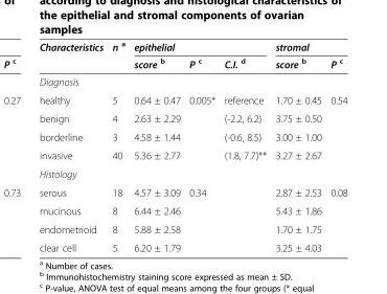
<table><thead><tr><td rowspan="2">Characteristics</td><td rowspan="2">n <sup>a</sup></td><td colspan="3">epithelial</td><td colspan="2">stromal</td></tr><tr><td>score <sup>b</sup></td><td>P <sup>c</sup></td><td>C.I. <sup>d</sup></td><td>score <sup>b</sup></td><td>P <sup>c</sup></td></tr></thead><tbody><tr><td colspan="7">Diagnosis</td></tr><tr><td>healthy</td><td>5</td><td>0.64 ± 0.47</td><td>0.005*</td><td>reference</td><td>1.70 ± 0.45</td><td>0.54</td></tr><tr><td>benign</td><td>4</td><td>2.63 ± 2.29</td><td></td><td>(-2.2, 6.2)</td><td>3.75 ± 0.50</td><td></td></tr><tr><td>borderline</td><td>3</td><td>4.58 ± 1.44</td><td></td><td>(-0.6, 8.5)</td><td>3.00 ± 1.00</td><td></td></tr><tr><td>invasive</td><td>40</td><td>5.36 ± 2.77</td><td></td><td>(1.8, 7.7)**</td><td>3.27 ± 2.67</td><td></td></tr><tr><td colspan="7">Histology</td></tr><tr><td>serous</td><td>18</td><td>4.57 ± 3.09</td><td>0.34</td><td></td><td>2.87 ± 2.53</td><td>0.08</td></tr><tr><td>mucinous</td><td>8</td><td>6.44 ± 2.46</td><td></td><td></td><td>5.43 ± 1.86</td><td></td></tr><tr><td>endometrioid</td><td>8</td><td>5.88 ± 2.58</td><td></td><td></td><td>1.70 ± 1.75</td><td></td></tr><tr><td>clear cell</td><td>5</td><td>6.20 ± 1.79</td><td></td><td></td><td>3.25 ± 4.03</td><td></td></tr></tbody></table>